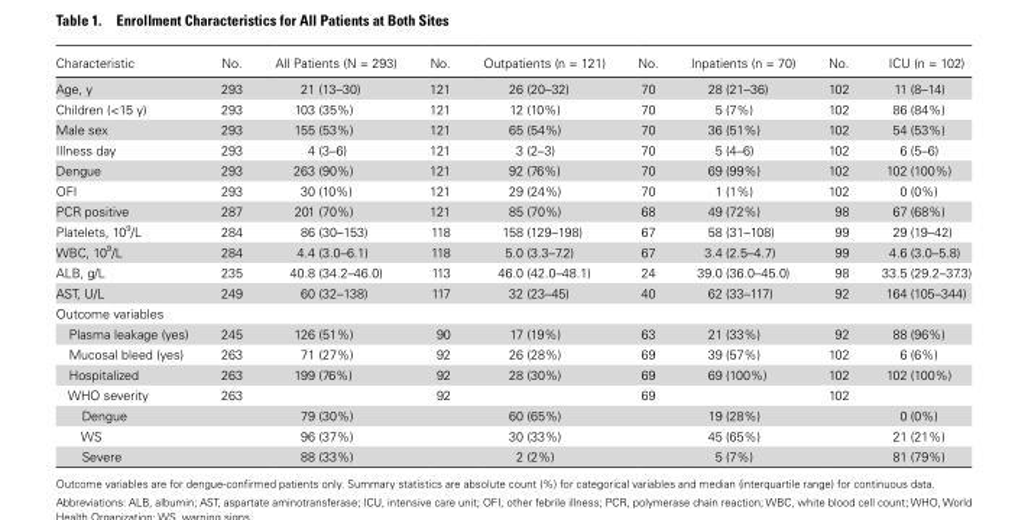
<table><thead><tr><td>Characteristic</td><td>No.</td><td>All Patients (N = 293)</td><td>No.</td><td>Outpatients (n = 121)</td><td>No.</td><td>Inpatients (n = 70)</td><td>No.</td><td>ICU (n = 102)</td></tr></thead><tbody><tr><td>Age, y</td><td>293</td><td>21 (13–30)</td><td>121</td><td>26 (20–32)</td><td>70</td><td>28 (21–36)</td><td>102</td><td>11 (8–14)</td></tr><tr><td>Children (&lt;15 y)</td><td>293</td><td>103 (35%)</td><td>121</td><td>12 (10%)</td><td>70</td><td>5 (7%)</td><td>102</td><td>86 (84%)</td></tr><tr><td>Male sex</td><td>293</td><td>155 (53%)</td><td>121</td><td>65 (54%)</td><td>70</td><td>36 (51%)</td><td>102</td><td>54 (53%)</td></tr><tr><td>Illness day</td><td>293</td><td>4 (3–6)</td><td>121</td><td>3 (2–3)</td><td>70</td><td>5 (4–6)</td><td>102</td><td>6 (5–6)</td></tr><tr><td>Dengue</td><td>293</td><td>263 (90%)</td><td>121</td><td>92 (76%)</td><td>70</td><td>69 (99%)</td><td>102</td><td>102 (100%)</td></tr><tr><td>OFI</td><td>293</td><td>30 (10%)</td><td>121</td><td>29 (24%)</td><td>70</td><td>1 (1%)</td><td>102</td><td>0 (0%)</td></tr><tr><td>PCR positive</td><td>287</td><td>201 (70%)</td><td>121</td><td>85 (70%)</td><td>68</td><td>49 (72%)</td><td>98</td><td>67 (68%)</td></tr><tr><td>Platelets, 10<sup>9</sup>/L</td><td>284</td><td>86 (30–153)</td><td>118</td><td>158 (129–198)</td><td>67</td><td>58 (31–108)</td><td>99</td><td>29 (19–42)</td></tr><tr><td>WBC, 10<sup>9</sup>/L</td><td>284</td><td>4.4 (3.0–6.1)</td><td>118</td><td>5.0 (3.3–7.2)</td><td>67</td><td>3.4 (2.5–4.7)</td><td>99</td><td>4.6 (3.0–5.8)</td></tr><tr><td>ALB, g/L</td><td>235</td><td>40.8 (34.2–46.0)</td><td>113</td><td>46.0 (42.0–48.1)</td><td>24</td><td>39.0 (36.0–45.0)</td><td>98</td><td>33.5 (29.2–37.3)</td></tr><tr><td>AST, U/L</td><td>249</td><td>60 (32–138)</td><td>117</td><td>32 (23–45)</td><td>40</td><td>62 (33–117)</td><td>92</td><td>164 (105–344)</td></tr><tr><td colspan="9">Outcome variables</td></tr><tr><td>Plasma leakage (yes)</td><td>245</td><td>126 (51%)</td><td>90</td><td>17 (19%)</td><td>63</td><td>21 (33%)</td><td>92</td><td>88 (96%)</td></tr><tr><td>Mucosal bleed (yes)</td><td>263</td><td>71 (27%)</td><td>92</td><td>26 (28%)</td><td>69</td><td>39 (57%)</td><td>102</td><td>6 (6%)</td></tr><tr><td>Hospitalized</td><td>263</td><td>199 (76%)</td><td>92</td><td>28 (30%)</td><td>69</td><td>69 (100%)</td><td>102</td><td>102 (100%)</td></tr><tr><td>WHO severity</td><td>263</td><td></td><td>92</td><td></td><td>69</td><td></td><td>102</td><td></td></tr><tr><td>Dengue</td><td></td><td>79 (30%)</td><td></td><td>60 (65%)</td><td></td><td>19 (28%)</td><td></td><td>0 (0%)</td></tr><tr><td>WS</td><td></td><td>96 (37%)</td><td></td><td>30 (33%)</td><td></td><td>45 (65%)</td><td></td><td>21 (21%)</td></tr><tr><td>Severe</td><td></td><td>88 (33%)</td><td></td><td>2 (2%)</td><td></td><td>5 (7%)</td><td></td><td>81 (79%)</td></tr></tbody></table>